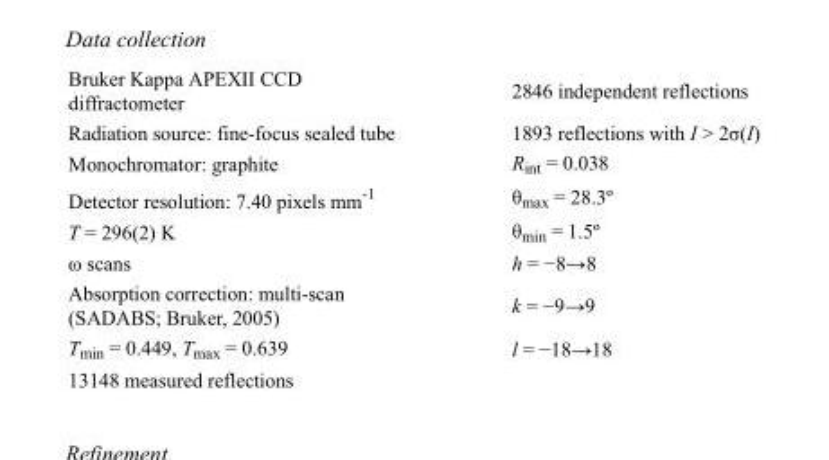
<table><tbody><tr><td>Bruker Kappa APEXII CCD diffractometer</td><td>2846 independent reflections</td></tr><tr><td>Radiation source: fine-focus sealed tube</td><td>1893 reflections with I &gt; 2σ(I)</td></tr><tr><td>Monochromator: graphite</td><td>R<sub>int</sub> = 0.038</td></tr><tr><td>Detector resolution: 7.40 pixels mm<sup>-1</sup></td><td>θ<sub>max</sub> = 28.3º</td></tr><tr><td>T = 296(2) K</td><td>θ<sub>min</sub> = 1.5º</td></tr><tr><td>ω scans</td><td>h = −8→8</td></tr><tr><td>Absorption correction: multi-scan (SADABS; Bruker, 2005)</td><td>k = −9→9</td></tr><tr><td>T<sub>min</sub> = 0.449, T<sub>max</sub> = 0.639</td><td>l = −18→18</td></tr><tr><td>13148 measured reflections</td><td></td></tr></tbody></table>